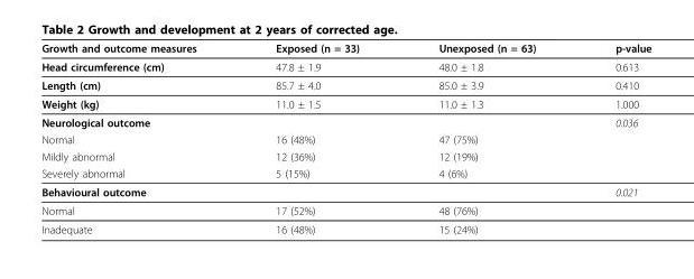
<table><thead><tr><td>Growth and outcome measures</td><td>Exposed (n = 33)</td><td>Unexposed (n = 63)</td><td>p-value</td></tr></thead><tbody><tr><td>Head circumference (cm)</td><td>47.8 ± 1.9</td><td>48.0 ± 1.8</td><td>0.613</td></tr><tr><td>Length (cm)</td><td>85.7 ± 4.0</td><td>85.0 ± 3.9</td><td>0.410</td></tr><tr><td>Weight (kg)</td><td>11.0 ± 1.5</td><td>11.0 ± 1.3</td><td>1.000</td></tr><tr><td>Neurological outcome</td><td></td><td></td><td>0.036</td></tr><tr><td>Normal</td><td>16 (48%)</td><td>47 (75%)</td><td></td></tr><tr><td>Mildly abnormal</td><td>12 (36%)</td><td>12 (19%)</td><td></td></tr><tr><td>Severely abnormal</td><td>5 (15%)</td><td>4 (6%)</td><td></td></tr><tr><td>Behavioural outcome</td><td></td><td></td><td>0.021</td></tr><tr><td>Normal</td><td>17 (52%)</td><td>48 (76%)</td><td></td></tr><tr><td>Inadequate</td><td>16 (48%)</td><td>15 (24%)</td><td></td></tr></tbody></table>